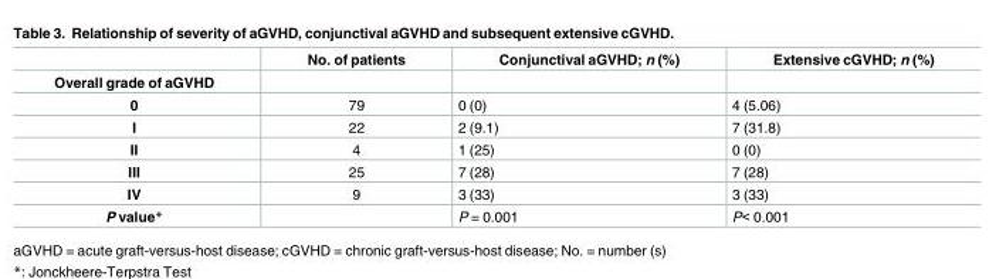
<table><thead><tr><td></td><td>No. of patients</td><td>Conjunctival aGVHD; n (%)</td><td>Extensive cGVHD; n (%)</td></tr></thead><tbody><tr><td colspan="4">Overall grade of aGVHD</td></tr><tr><td>0</td><td>79</td><td>0 (0)</td><td>4 (5.06)</td></tr><tr><td>I</td><td>22</td><td>2 (9.1)</td><td>7 (31.8)</td></tr><tr><td>II</td><td>4</td><td>1 (25)</td><td>0 (0)</td></tr><tr><td>III</td><td>25</td><td>7 (28)</td><td>7 (28)</td></tr><tr><td>IV</td><td>9</td><td>3 (33)</td><td>3 (33)</td></tr><tr><td>P value*</td><td></td><td>P = 0.001</td><td>P&lt; 0.001</td></tr></tbody></table>